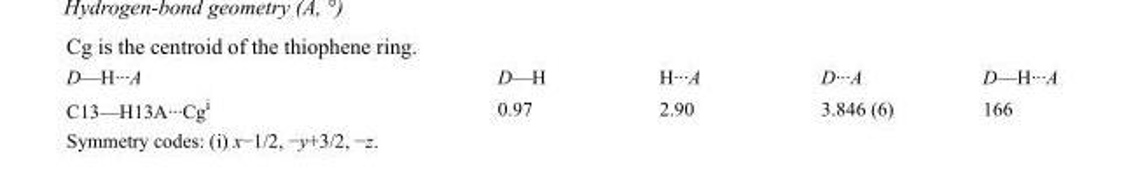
<table><tbody><tr><td>D—H···A</td><td>D—H</td><td>H···A</td><td>D···A</td><td>D—H···A</td></tr><tr><td>C13—H13A···Cg<sup>i</sup></td><td>0.97</td><td>2.90</td><td>3.846 (6)</td><td>166</td></tr></tbody></table>